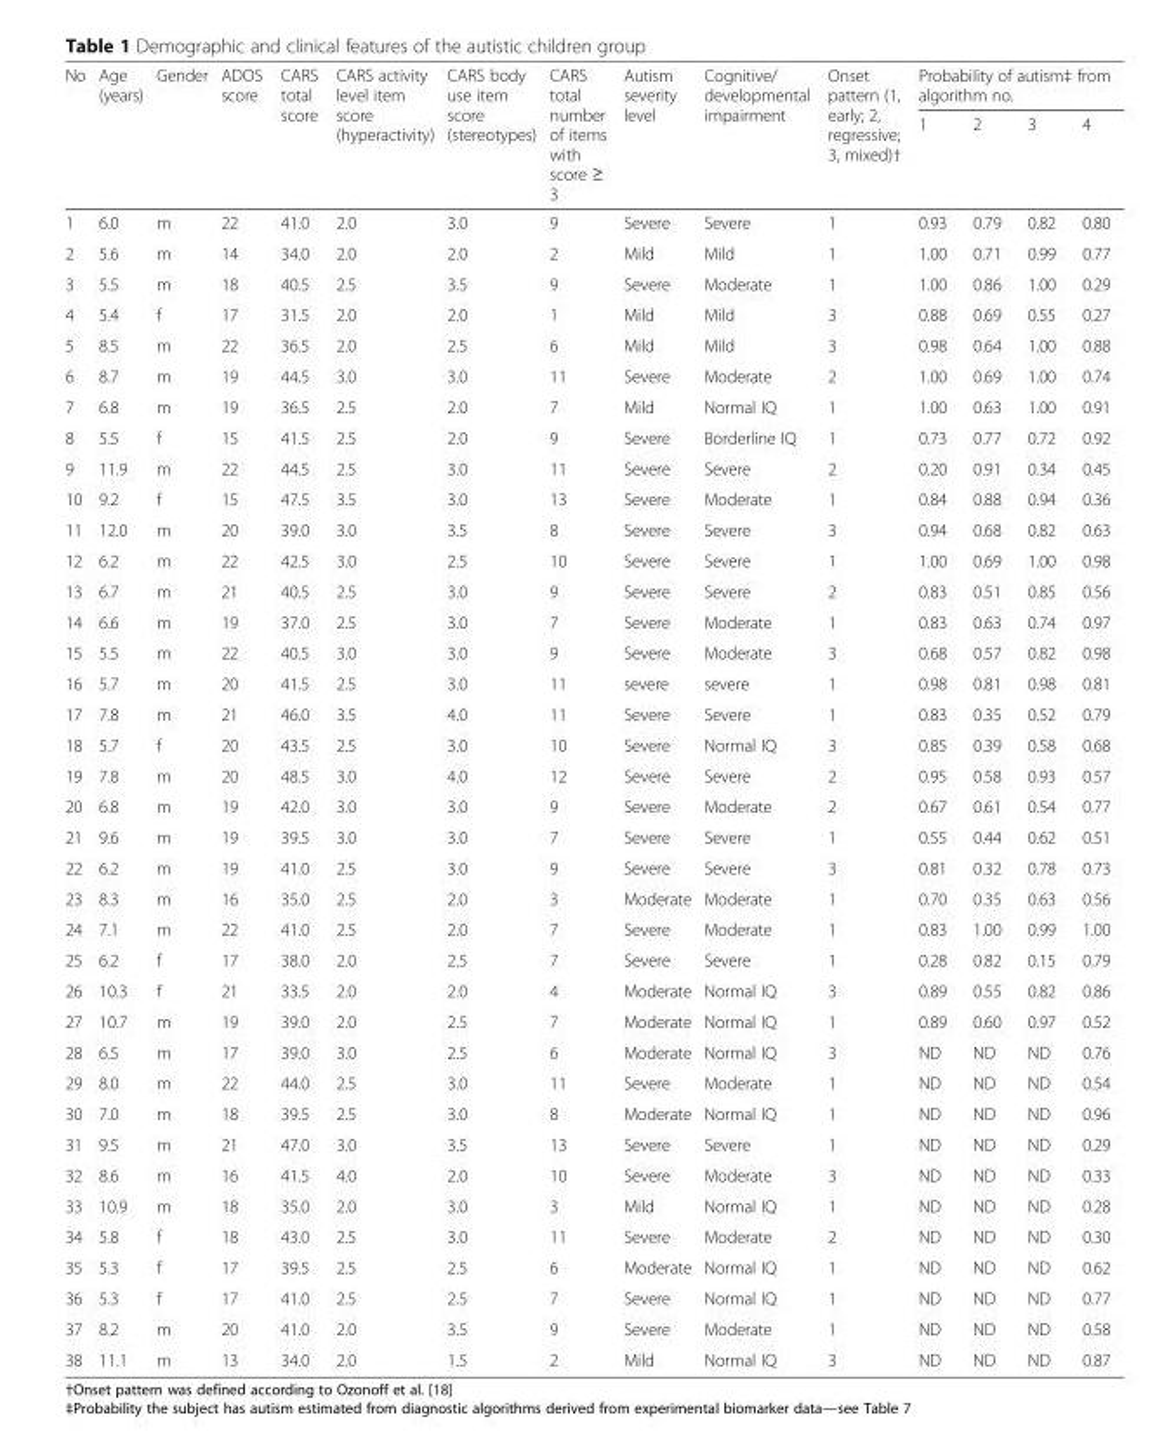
<table><thead><tr><td rowspan="2">No</td><td rowspan="2">Age (years)</td><td rowspan="2">Gender</td><td rowspan="2">ADOS score</td><td rowspan="2">CARS total score</td><td rowspan="2">CARS activity level item score (hyperactivity)</td><td rowspan="2">CARS body use item score (stereotypes)</td><td rowspan="2">CARS total number of items with score ≥ 3</td><td rowspan="2">Autism severity level</td><td rowspan="2">Cognitive/ developmental impairment</td><td rowspan="2">Onset pattern (1, early; 2, regressive; 3, mixed)†</td><td colspan="4">Probability of autism‡ from algorithm no.</td></tr><tr><td>1</td><td>2</td><td>3</td><td>4</td></tr></thead><tbody><tr><td>1</td><td>6.0</td><td>m</td><td>22</td><td>41.0</td><td>2.0</td><td>3.0</td><td>9</td><td>Severe</td><td>Severe</td><td>1</td><td>0.93</td><td>0.79</td><td>0.82</td><td>0.80</td></tr><tr><td>2</td><td>5.6</td><td>m</td><td>14</td><td>34.0</td><td>2.0</td><td>2.0</td><td>2</td><td>Mild</td><td>Mild</td><td>1</td><td>1.00</td><td>0.71</td><td>0.99</td><td>0.77</td></tr><tr><td>3</td><td>5.5</td><td>m</td><td>18</td><td>40.5</td><td>2.5</td><td>3.5</td><td>9</td><td>Severe</td><td>Moderate</td><td>1</td><td>1.00</td><td>0.86</td><td>1.00</td><td>0.29</td></tr><tr><td>4</td><td>5.4</td><td>f</td><td>17</td><td>31.5</td><td>2.0</td><td>2.0</td><td>1</td><td>Mild</td><td>Mild</td><td>3</td><td>0.88</td><td>0.69</td><td>0.55</td><td>0.27</td></tr><tr><td>5</td><td>8.5</td><td>m</td><td>22</td><td>36.5</td><td>2.0</td><td>2.5</td><td>6</td><td>Mild</td><td>Mild</td><td>3</td><td>0.98</td><td>0.64</td><td>1.00</td><td>0.88</td></tr><tr><td>6</td><td>8.7</td><td>m</td><td>19</td><td>44.5</td><td>3.0</td><td>3.0</td><td>11</td><td>Severe</td><td>Moderate</td><td>2</td><td>1.00</td><td>0.69</td><td>1.00</td><td>0.74</td></tr><tr><td>7</td><td>6.8</td><td>m</td><td>19</td><td>36.5</td><td>2.5</td><td>2.0</td><td>7</td><td>Mild</td><td>Normal IQ</td><td>1</td><td>1.00</td><td>0.63</td><td>1.00</td><td>0.91</td></tr><tr><td>8</td><td>5.5</td><td>f</td><td>15</td><td>41.5</td><td>2.5</td><td>2.0</td><td>9</td><td>Severe</td><td>Borderline IQ</td><td>1</td><td>0.73</td><td>0.77</td><td>0.72</td><td>0.92</td></tr><tr><td>9</td><td>11.9</td><td>m</td><td>22</td><td>44.5</td><td>2.5</td><td>3.0</td><td>11</td><td>Severe</td><td>Severe</td><td>2</td><td>0.20</td><td>0.91</td><td>0.34</td><td>0.45</td></tr><tr><td>10</td><td>9.2</td><td>f</td><td>15</td><td>47.5</td><td>3.5</td><td>3.0</td><td>13</td><td>Severe</td><td>Moderate</td><td>1</td><td>0.84</td><td>0.88</td><td>0.94</td><td>0.36</td></tr><tr><td>11</td><td>12.0</td><td>m</td><td>20</td><td>39.0</td><td>3.0</td><td>3.5</td><td>8</td><td>Severe</td><td>Severe</td><td>3</td><td>0.94</td><td>0.68</td><td>0.82</td><td>0.63</td></tr><tr><td>12</td><td>6.2</td><td>m</td><td>22</td><td>42.5</td><td>3.0</td><td>2.5</td><td>10</td><td>Severe</td><td>Severe</td><td>1</td><td>1.00</td><td>0.69</td><td>1.00</td><td>0.98</td></tr><tr><td>13</td><td>6.7</td><td>m</td><td>21</td><td>40.5</td><td>2.5</td><td>3.0</td><td>9</td><td>Severe</td><td>Severe</td><td>2</td><td>0.83</td><td>0.51</td><td>0.85</td><td>0.56</td></tr><tr><td>14</td><td>6.6</td><td>m</td><td>19</td><td>37.0</td><td>2.5</td><td>3.0</td><td>7</td><td>Severe</td><td>Moderate</td><td>1</td><td>0.83</td><td>0.63</td><td>0.74</td><td>0.97</td></tr><tr><td>15</td><td>5.5</td><td>m</td><td>22</td><td>40.5</td><td>3.0</td><td>3.0</td><td>9</td><td>Severe</td><td>Moderate</td><td>3</td><td>0.68</td><td>0.57</td><td>0.82</td><td>0.98</td></tr><tr><td>16</td><td>5.7</td><td>m</td><td>20</td><td>41.5</td><td>2.5</td><td>3.0</td><td>11</td><td>severe</td><td>severe</td><td>1</td><td>0.98</td><td>0.81</td><td>0.98</td><td>0.81</td></tr><tr><td>17</td><td>7.8</td><td>m</td><td>21</td><td>46.0</td><td>3.5</td><td>4.0</td><td>11</td><td>Severe</td><td>Severe</td><td>1</td><td>0.83</td><td>0.35</td><td>0.52</td><td>0.79</td></tr><tr><td>18</td><td>5.7</td><td>f</td><td>20</td><td>43.5</td><td>2.5</td><td>3.0</td><td>10</td><td>Severe</td><td>Normal IQ</td><td>3</td><td>0.85</td><td>0.39</td><td>0.58</td><td>0.68</td></tr><tr><td>19</td><td>7.8</td><td>m</td><td>20</td><td>48.5</td><td>3.0</td><td>4.0</td><td>12</td><td>Severe</td><td>Severe</td><td>2</td><td>0.95</td><td>0.58</td><td>0.93</td><td>0.57</td></tr><tr><td>20</td><td>6.8</td><td>m</td><td>19</td><td>42.0</td><td>3.0</td><td>3.0</td><td>9</td><td>Severe</td><td>Moderate</td><td>2</td><td>0.67</td><td>0.61</td><td>0.54</td><td>0.77</td></tr><tr><td>21</td><td>9.6</td><td>m</td><td>19</td><td>39.5</td><td>3.0</td><td>3.0</td><td>7</td><td>Severe</td><td>Severe</td><td>1</td><td>0.55</td><td>0.44</td><td>0.62</td><td>0.51</td></tr><tr><td>22</td><td>6.2</td><td>m</td><td>19</td><td>41.0</td><td>2.5</td><td>3.0</td><td>9</td><td>Severe</td><td>Severe</td><td>3</td><td>0.81</td><td>0.32</td><td>0.78</td><td>0.73</td></tr><tr><td>23</td><td>8.3</td><td>m</td><td>16</td><td>35.0</td><td>2.5</td><td>2.0</td><td>3</td><td>Moderate</td><td>Moderate</td><td>1</td><td>0.70</td><td>0.35</td><td>0.63</td><td>0.56</td></tr><tr><td>24</td><td>7.1</td><td>m</td><td>22</td><td>41.0</td><td>2.5</td><td>2.0</td><td>7</td><td>Severe</td><td>Moderate</td><td>1</td><td>0.83</td><td>1.00</td><td>0.99</td><td>1.00</td></tr><tr><td>25</td><td>6.2</td><td>f</td><td>17</td><td>38.0</td><td>2.0</td><td>2.5</td><td>7</td><td>Severe</td><td>Severe</td><td>1</td><td>0.28</td><td>0.82</td><td>0.15</td><td>0.79</td></tr><tr><td>26</td><td>10.3</td><td>f</td><td>21</td><td>33.5</td><td>2.0</td><td>2.0</td><td>4</td><td>Moderate</td><td>Normal IQ</td><td>3</td><td>0.89</td><td>0.55</td><td>0.82</td><td>0.86</td></tr><tr><td>27</td><td>10.7</td><td>m</td><td>19</td><td>39.0</td><td>2.0</td><td>2.5</td><td>7</td><td>Moderate</td><td>Normal IQ</td><td>1</td><td>0.89</td><td>0.60</td><td>0.97</td><td>0.52</td></tr><tr><td>28</td><td>6.5</td><td>m</td><td>17</td><td>39.0</td><td>3.0</td><td>2.5</td><td>6</td><td>Moderate</td><td>Normal IQ</td><td>3</td><td>ND</td><td>ND</td><td>ND</td><td>0.76</td></tr><tr><td>29</td><td>8.0</td><td>m</td><td>22</td><td>44.0</td><td>2.5</td><td>3.0</td><td>11</td><td>Severe</td><td>Moderate</td><td>1</td><td>ND</td><td>ND</td><td>ND</td><td>0.54</td></tr><tr><td>30</td><td>7.0</td><td>m</td><td>18</td><td>39.5</td><td>2.5</td><td>3.0</td><td>8</td><td>Moderate</td><td>Normal IQ</td><td>1</td><td>ND</td><td>ND</td><td>ND</td><td>0.96</td></tr><tr><td>31</td><td>9.5</td><td>m</td><td>21</td><td>47.0</td><td>3.0</td><td>3.5</td><td>13</td><td>Severe</td><td>Severe</td><td>1</td><td>ND</td><td>ND</td><td>ND</td><td>0.29</td></tr><tr><td>32</td><td>8.6</td><td>m</td><td>16</td><td>41.5</td><td>4.0</td><td>2.0</td><td>10</td><td>Severe</td><td>Moderate</td><td>3</td><td>ND</td><td>ND</td><td>ND</td><td>0.33</td></tr><tr><td>33</td><td>10.9</td><td>m</td><td>18</td><td>35.0</td><td>2.0</td><td>3.0</td><td>3</td><td>Mild</td><td>Normal IQ</td><td>1</td><td>ND</td><td>ND</td><td>ND</td><td>0.28</td></tr><tr><td>34</td><td>5.8</td><td>f</td><td>18</td><td>43.0</td><td>2.5</td><td>3.0</td><td>11</td><td>Severe</td><td>Moderate</td><td>2</td><td>ND</td><td>ND</td><td>ND</td><td>0.30</td></tr><tr><td>35</td><td>5.3</td><td>f</td><td>17</td><td>39.5</td><td>2.5</td><td>2.5</td><td>6</td><td>Moderate</td><td>Normal IQ</td><td>1</td><td>ND</td><td>ND</td><td>ND</td><td>0.62</td></tr><tr><td>36</td><td>5.3</td><td>f</td><td>17</td><td>41.0</td><td>2.5</td><td>2.5</td><td>7</td><td>Severe</td><td>Normal IQ</td><td>1</td><td>ND</td><td>ND</td><td>ND</td><td>0.77</td></tr><tr><td>37</td><td>8.2</td><td>m</td><td>20</td><td>41.0</td><td>2.0</td><td>3.5</td><td>9</td><td>Severe</td><td>Moderate</td><td>1</td><td>ND</td><td>ND</td><td>ND</td><td>0.58</td></tr><tr><td>38</td><td>11.1</td><td>m</td><td>13</td><td>34.0</td><td>2.0</td><td>1.5</td><td>2</td><td>Mild</td><td>Normal IQ</td><td>3</td><td>ND</td><td>ND</td><td>ND</td><td>0.87</td></tr></tbody></table>